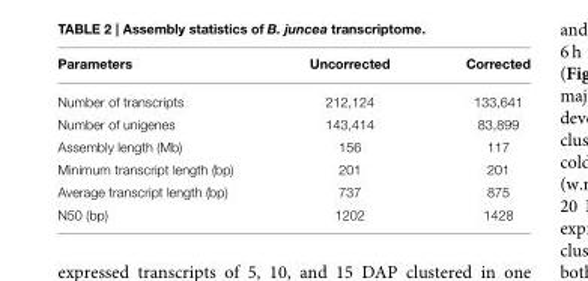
<table><thead><tr><td>Parameters</td><td>Uncorrected</td><td>Corrected</td></tr></thead><tbody><tr><td>Number of transcripts</td><td>212,124</td><td>133,641</td></tr><tr><td>Number of unigenes</td><td>143,414</td><td>83,899</td></tr><tr><td>Assembly length (Mb)</td><td>156</td><td>117</td></tr><tr><td>Minimum transcript length (bp)</td><td>201</td><td>201</td></tr><tr><td>Average transcript length (bp)</td><td>737</td><td>875</td></tr><tr><td>N50 (bp)</td><td>1202</td><td>1428</td></tr></tbody></table>